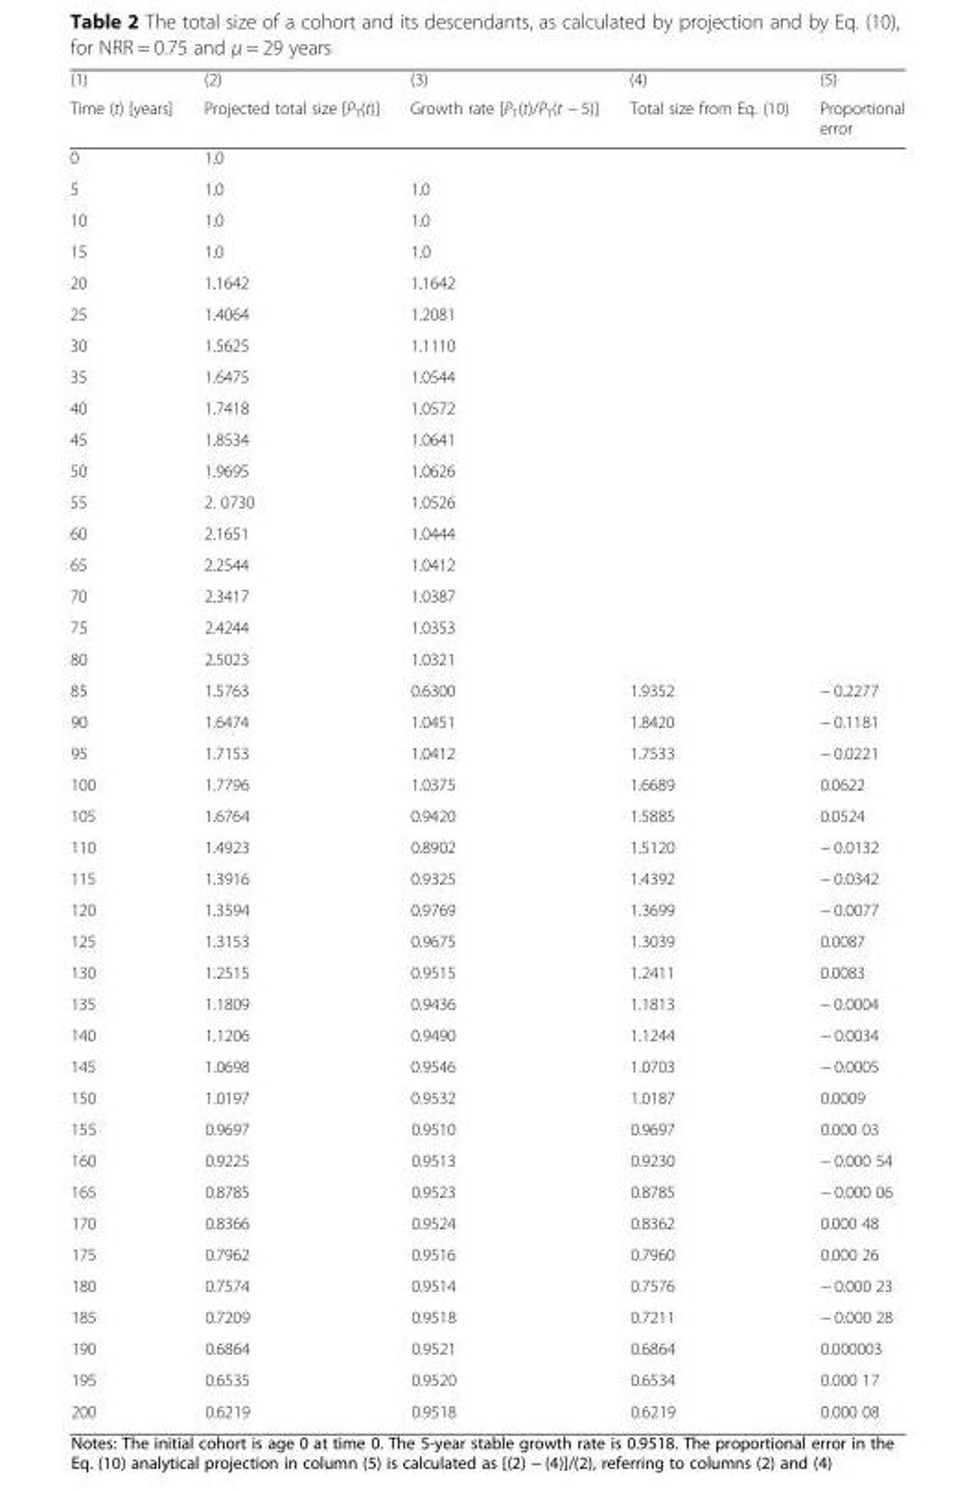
<table><thead><tr><td rowspan="2">(1) Time (t) [years]</td><td rowspan="2">(2) Projected total size [P<sub>T</sub>(t)]</td><td rowspan="2">(3) Growth rate [P<sub>T</sub>(t)/P<sub>T</sub>(t − 5)]</td><td rowspan="2">(4) Total size from Eq. (10)</td><td rowspan="2">(5) Proportional error</td></tr><tr></tr></thead><tbody><tr><td>0</td><td>1.0</td><td></td><td></td><td></td></tr><tr><td>5</td><td>1.0</td><td>1.0</td><td></td><td></td></tr><tr><td>10</td><td>1.0</td><td>1.0</td><td></td><td></td></tr><tr><td>15</td><td>1.0</td><td>1.0</td><td></td><td></td></tr><tr><td>20</td><td>1.1642</td><td>1.1642</td><td></td><td></td></tr><tr><td>25</td><td>1.4064</td><td>1.2081</td><td></td><td></td></tr><tr><td>30</td><td>1.5625</td><td>1.1110</td><td></td><td></td></tr><tr><td>35</td><td>1.6475</td><td>1.0544</td><td></td><td></td></tr><tr><td>40</td><td>1.7418</td><td>1.0572</td><td></td><td></td></tr><tr><td>45</td><td>1.8534</td><td>1.0641</td><td></td><td></td></tr><tr><td>50</td><td>1.9695</td><td>1.0626</td><td></td><td></td></tr><tr><td>55</td><td>2. 0730</td><td>1.0526</td><td></td><td></td></tr><tr><td>60</td><td>2.1651</td><td>1.0444</td><td></td><td></td></tr><tr><td>65</td><td>2.2544</td><td>1.0412</td><td></td><td></td></tr><tr><td>70</td><td>2.3417</td><td>1.0387</td><td></td><td></td></tr><tr><td>75</td><td>2.4244</td><td>1.0353</td><td></td><td></td></tr><tr><td>80</td><td>2.5023</td><td>1.0321</td><td></td><td></td></tr><tr><td>85</td><td>1.5763</td><td>0.6300</td><td>1.9352</td><td>− 0.2277</td></tr><tr><td>90</td><td>1.6474</td><td>1.0451</td><td>1.8420</td><td>− 0.1181</td></tr><tr><td>95</td><td>1.7153</td><td>1.0412</td><td>1.7533</td><td>− 0.0221</td></tr><tr><td>100</td><td>1.7796</td><td>1.0375</td><td>1.6689</td><td>0.0622</td></tr><tr><td>105</td><td>1.6764</td><td>0.9420</td><td>1.5885</td><td>0.0524</td></tr><tr><td>110</td><td>1.4923</td><td>0.8902</td><td>1.5120</td><td>− 0.0132</td></tr><tr><td>115</td><td>1.3916</td><td>0.9325</td><td>1.4392</td><td>− 0.0342</td></tr><tr><td>120</td><td>1.3594</td><td>0.9769</td><td>1.3699</td><td>− 0.0077</td></tr><tr><td>125</td><td>1.3153</td><td>0.9675</td><td>1.3039</td><td>0.0087</td></tr><tr><td>130</td><td>1.2515</td><td>0.9515</td><td>1.2411</td><td>0.0083</td></tr><tr><td>135</td><td>1.1809</td><td>0.9436</td><td>1.1813</td><td>− 0.0004</td></tr><tr><td>140</td><td>1.1206</td><td>0.9490</td><td>1.1244</td><td>− 0.0034</td></tr><tr><td>145</td><td>1.0698</td><td>0.9546</td><td>1.0703</td><td>− 0.0005</td></tr><tr><td>150</td><td>1.0197</td><td>0.9532</td><td>1.0187</td><td>0.0009</td></tr><tr><td>155</td><td>0.9697</td><td>0.9510</td><td>0.9697</td><td>0.000 03</td></tr><tr><td>160</td><td>0.9225</td><td>0.9513</td><td>0.9230</td><td>− 0.000 54</td></tr><tr><td>165</td><td>0.8785</td><td>0.9523</td><td>0.8785</td><td>− 0.000 06</td></tr><tr><td>170</td><td>0.8366</td><td>0.9524</td><td>0.8362</td><td>0.000 48</td></tr><tr><td>175</td><td>0.7962</td><td>0.9516</td><td>0.7960</td><td>0.000 26</td></tr><tr><td>180</td><td>0.7574</td><td>0.9514</td><td>0.7576</td><td>− 0.000 23</td></tr><tr><td>185</td><td>0.7209</td><td>0.9518</td><td>0.7211</td><td>− 0.000 28</td></tr><tr><td>190</td><td>0.6864</td><td>0.9521</td><td>0.6864</td><td>0.000003</td></tr><tr><td>195</td><td>0.6535</td><td>0.9520</td><td>0.6534</td><td>0.000 17</td></tr><tr><td>200</td><td>0.6219</td><td>0.9518</td><td>0.6219</td><td>0.000 08</td></tr></tbody></table>